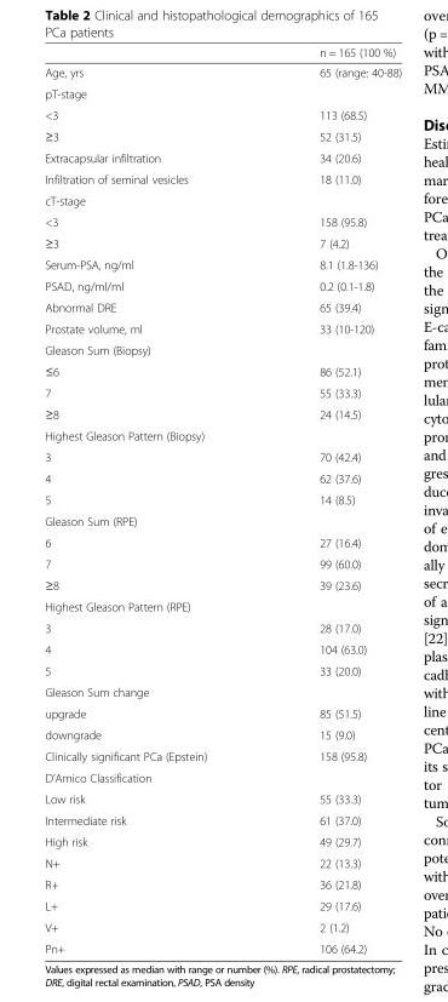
<table><thead><tr><td></td><td>n = 165 (100 %)</td></tr></thead><tbody><tr><td>Age, yrs</td><td>65 (range: 40-88)</td></tr><tr><td colspan="2">pT-stage</td></tr><tr><td>&lt;3</td><td>113 (68.5)</td></tr><tr><td>≥3</td><td>52 (31.5)</td></tr><tr><td>Extracapsular infiltration</td><td>34 (20.6)</td></tr><tr><td>Infiltration of seminal vesicles</td><td>18 (11.0)</td></tr><tr><td colspan="2">cT-stage</td></tr><tr><td>&lt;3</td><td>158 (95.8)</td></tr><tr><td>≥3</td><td>7 (4.2)</td></tr><tr><td>Serum-PSA, ng/ml</td><td>8.1 (1.8-136)</td></tr><tr><td>PSAD, ng/ml/ml</td><td>0.2 (0.1-1.8)</td></tr><tr><td>Abnormal DRE</td><td>65 (39.4)</td></tr><tr><td>Prostate volume, ml</td><td>33 (10-120)</td></tr><tr><td colspan="2">Gleason Sum (Biopsy)</td></tr><tr><td>≤6</td><td>86 (52.1)</td></tr><tr><td>7</td><td>55 (33.3)</td></tr><tr><td>≥8</td><td>24 (14.5)</td></tr><tr><td colspan="2">Highest Gleason Pattern (Biopsy)</td></tr><tr><td>3</td><td>70 (42.4)</td></tr><tr><td>4</td><td>62 (37.6)</td></tr><tr><td>5</td><td>14 (8.5)</td></tr><tr><td colspan="2">Gleason Sum (RPE)</td></tr><tr><td>6</td><td>27 (16.4)</td></tr><tr><td>7</td><td>99 (60.0)</td></tr><tr><td>≥8</td><td>39 (23.6)</td></tr><tr><td colspan="2">Highest Gleason Pattern (RPE)</td></tr><tr><td>3</td><td>28 (17.0)</td></tr><tr><td>4</td><td>104 (63.0)</td></tr><tr><td>5</td><td>33 (20.0)</td></tr><tr><td colspan="2">Gleason Sum change</td></tr><tr><td>upgrade</td><td>85 (51.5)</td></tr><tr><td>downgrade</td><td>15 (9.0)</td></tr><tr><td>Clinically significant PCa (Epstein)</td><td>158 (95.8)</td></tr><tr><td colspan="2">D’Amico Classification</td></tr><tr><td>Low risk</td><td>55 (33.3)</td></tr><tr><td>Intermediate risk</td><td>61 (37.0)</td></tr><tr><td>High risk</td><td>49 (29.7)</td></tr><tr><td>N+</td><td>22 (13.3)</td></tr><tr><td>R+</td><td>36 (21.8)</td></tr><tr><td>L+</td><td>29 (17.6)</td></tr><tr><td>V+</td><td>2 (1.2)</td></tr><tr><td>Pn+</td><td>106 (64.2)</td></tr></tbody></table>